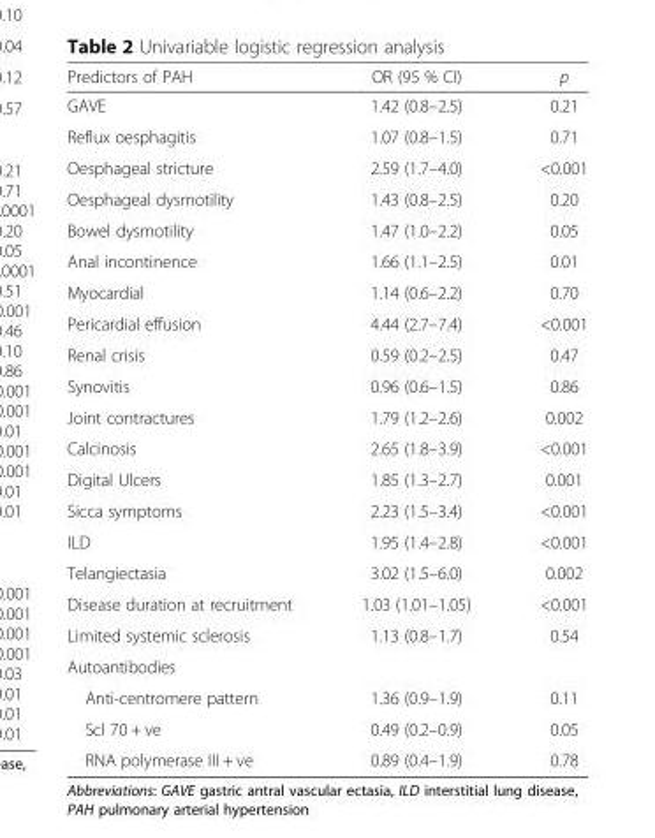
<table><thead><tr><td>Predictors of PAH</td><td>OR (95 % CI)</td><td>p</td></tr></thead><tbody><tr><td>GAVE</td><td>1.42 (0.8–2.5)</td><td>0.21</td></tr><tr><td>Reflux oesphagitis</td><td>1.07 (0.8–1.5)</td><td>0.71</td></tr><tr><td>Oesphageal stricture</td><td>2.59 (1.7–4.0)</td><td>&lt;0.001</td></tr><tr><td>Oesphageal dysmotility</td><td>1.43 (0.8–2.5)</td><td>0.20</td></tr><tr><td>Bowel dysmotility</td><td>1.47 (1.0–2.2)</td><td>0.05</td></tr><tr><td>Anal incontinence</td><td>1.66 (1.1–2.5)</td><td>0.01</td></tr><tr><td>Myocardial</td><td>1.14 (0.6–2.2)</td><td>0.70</td></tr><tr><td>Pericardial effusion</td><td>4.44 (2.7–7.4)</td><td>&lt;0.001</td></tr><tr><td>Renal crisis</td><td>0.59 (0.2–2.5)</td><td>0.47</td></tr><tr><td>Synovitis</td><td>0.96 (0.6–1.5)</td><td>0.86</td></tr><tr><td>Joint contractures</td><td>1.79 (1.2–2.6)</td><td>0.002</td></tr><tr><td>Calcinosis</td><td>2.65 (1.8–3.9)</td><td>&lt;0.001</td></tr><tr><td>Digital Ulcers</td><td>1.85 (1.3–2.7)</td><td>0.001</td></tr><tr><td>Sicca symptoms</td><td>2.23 (1.5–3.4)</td><td>&lt;0.001</td></tr><tr><td>ILD</td><td>1.95 (1.4–2.8)</td><td>&lt;0.001</td></tr><tr><td>Telangiectasia</td><td>3.02 (1.5–6.0)</td><td>0.002</td></tr><tr><td>Disease duration at recruitment</td><td>1.03 (1.01–1.05)</td><td>&lt;0.001</td></tr><tr><td>Limited systemic sclerosis</td><td>1.13 (0.8–1.7)</td><td>0.54</td></tr><tr><td colspan="3">Autoantibodies</td></tr><tr><td>Anti-centromere pattern</td><td>1.36 (0.9–1.9)</td><td>0.11</td></tr><tr><td>Scl 70 + ve</td><td>0.49 (0.2–0.9)</td><td>0.05</td></tr><tr><td>RNA polymerase III + ve</td><td>0.89 (0.4–1.9)</td><td>0.78</td></tr></tbody></table>